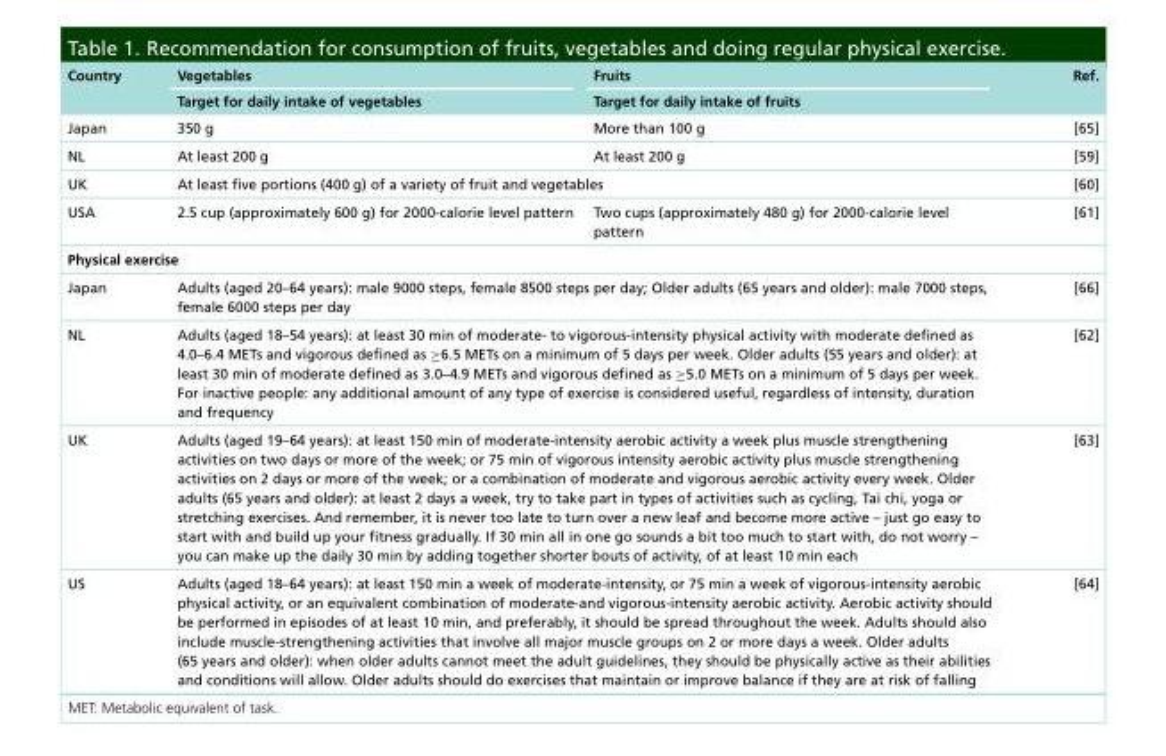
<table><thead><tr><td rowspan="2">Country</td><td rowspan="2">Vegetables Target for daily intake of vegetables</td><td rowspan="2">Fruits Target for daily intake of fruits</td><td rowspan="2">Ref.</td></tr><tr></tr></thead><tbody><tr><td>Japan</td><td>350 g</td><td>More than 100 g</td><td>[65]</td></tr><tr><td>NL</td><td>At least 200 g</td><td>At least 200 g</td><td>[59]</td></tr><tr><td>UK</td><td colspan="2">At least five portions (400 g) of a variety of fruit and vegetables</td><td>[60]</td></tr><tr><td>USA</td><td>2.5 cup (approximately 600 g) for 2000-calorie level pattern</td><td>Two cups (approximately 480 g) for 2000-calorie level pattern</td><td>[61]</td></tr><tr><td colspan="4">Physical exercise</td></tr><tr><td>Japan</td><td colspan="2">Adults (aged 20–64 years): male 9000 steps, female 8500 steps per day; Older adults (65 years and older): male 7000 steps, female 6000 steps per day</td><td>[66]</td></tr><tr><td>NL</td><td colspan="2">Adults (aged 18–54 years): at least 30 min of moderate- to vigorous-intensity physical activity with moderate defined as 4.0–6.4 METs and vigorous defined as ≥6.5 METs on a minimum of 5 days per week. Older adults (55 years and older): at least 30 min of moderate defined as 3.0–4.9 METs and vigorous defined as ≥5.0 METs on a minimum of 5 days per week. For inactive people: any additional amount of any type of exercise is considered useful, regardless of intensity, duration and frequency</td><td>[62]</td></tr><tr><td>UK</td><td colspan="2">Adults (aged 19–64 years): at least 150 min of moderate-intensity aerobic activity a week plus muscle strengthening activities on two days or more of the week; or 75 min of vigorous intensity aerobic activity plus muscle strengthening activities on 2 days or more of the week; or a combination of moderate and vigorous aerobic activity every week. Older adults (65 years and older): at least 2 days a week, try to take part in types of activities such as cycling, Tai chi, yoga or stretching exercises. And remember, it is never too late to turn over a new leaf and become more active – just go easy to start with and build up your fitness gradually. If 30 min all in one go sounds a bit too much to start with, do not worry – you can make up the daily 30 min by adding together shorter bouts of activity, of at least 10 min each</td><td>[63]</td></tr><tr><td>US</td><td colspan="2">Adults (aged 18–64 years): at least 150 min a week of moderate-intensity, or 75 min a week of vigorous-intensity aerobic physical activity, or an equivalent combination of moderate-and vigorous-intensity aerobic activity. Aerobic activity should be performed in episodes of at least 10 min, and preferably, it should be spread throughout the week. Adults should also include muscle-strengthening activities that involve all major muscle groups on 2 or more days a week. Older adults (65 years and older): when older adults cannot meet the adult guidelines, they should be physically active as their abilities and conditions will allow. Older adults should do exercises that maintain or improve balance if they are at risk of falling</td><td>[64]</td></tr></tbody></table>